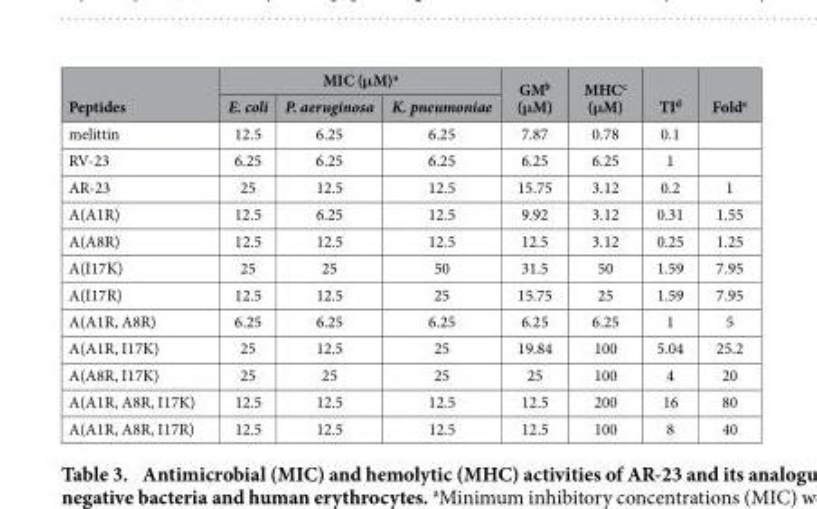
<table><thead><tr><td rowspan="2">Peptides</td><td colspan="3">MIC (μM)<sup>a</sup></td><td rowspan="2">GM<sup>b</sup> (μM)</td><td rowspan="2">MHC<sup>c</sup> (μM)</td><td rowspan="2">TI<sup>d</sup></td><td rowspan="2">Fold<sup>e</sup></td></tr><tr><td>E. coli</td><td>P. aeruginosa</td><td>K. pneumoniae</td></tr></thead><tbody><tr><td>melittin</td><td>12.5</td><td>6.25</td><td>6.25</td><td>7.87</td><td>0.78</td><td>0.1</td><td></td></tr><tr><td>RV-23</td><td>6.25</td><td>6.25</td><td>6.25</td><td>6.25</td><td>6.25</td><td>1</td><td></td></tr><tr><td>AR-23</td><td>25</td><td>12.5</td><td>12.5</td><td>15.75</td><td>3.12</td><td>0.2</td><td>1</td></tr><tr><td>A(A1R)</td><td>12.5</td><td>6.25</td><td>12.5</td><td>9.92</td><td>3.12</td><td>0.31</td><td>1.55</td></tr><tr><td>A(A8R)</td><td>12.5</td><td>12.5</td><td>12.5</td><td>12.5</td><td>3.12</td><td>0.25</td><td>1.25</td></tr><tr><td>A(I17K)</td><td>25</td><td>25</td><td>50</td><td>31.5</td><td>50</td><td>1.59</td><td>7.95</td></tr><tr><td>A(I17R)</td><td>12.5</td><td>12.5</td><td>25</td><td>15.75</td><td>25</td><td>1.59</td><td>7.95</td></tr><tr><td>A(A1R, A8R)</td><td>6.25</td><td>6.25</td><td>6.25</td><td>6.25</td><td>6.25</td><td>1</td><td>5</td></tr><tr><td>A(A1R, I17K)</td><td>25</td><td>12.5</td><td>25</td><td>19.84</td><td>100</td><td>5.04</td><td>25.2</td></tr><tr><td>A(A8R, I17K)</td><td>25</td><td>25</td><td>25</td><td>25</td><td>100</td><td>4</td><td>20</td></tr><tr><td>A(A1R, A8R, I17K)</td><td>12.5</td><td>12.5</td><td>12.5</td><td>12.5</td><td>200</td><td>16</td><td>80</td></tr><tr><td>A(A1R, A8R, I17R)</td><td>12.5</td><td>12.5</td><td>12.5</td><td>12.5</td><td>100</td><td>8</td><td>40</td></tr></tbody></table>